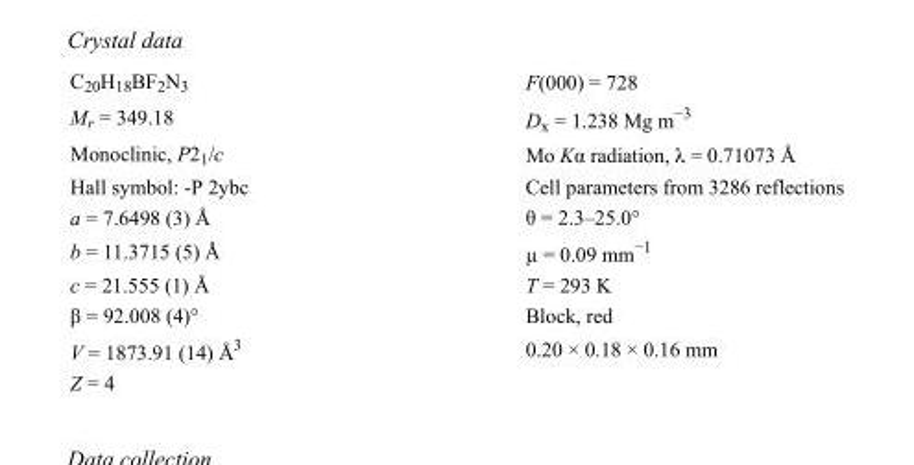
<table><tbody><tr><td>C<sub>20</sub>H<sub>18</sub>BF<sub>2</sub>N<sub>3</sub></td><td>F(000) = 728</td></tr><tr><td>M<sub>r</sub> = 349.18</td><td>D<sub>x</sub> = 1.238 Mg m<sup>−3</sup></td></tr><tr><td>Monoclinic, P2<sub>1</sub>/c</td><td>Mo Kα radiation, λ = 0.71073 Å</td></tr><tr><td>Hall symbol: -P 2ybc</td><td>Cell parameters from 3286 reflections</td></tr><tr><td>a = 7.6498 (3) Å</td><td>θ = 2.3–25.0°</td></tr><tr><td>b = 11.3715 (5) Å</td><td>µ = 0.09 mm<sup>−1</sup></td></tr><tr><td>c = 21.555 (1) Å</td><td>T = 293 K</td></tr><tr><td>β = 92.008 (4)°</td><td>Block, red</td></tr><tr><td>V = 1873.91 (14) Å<sup>3</sup></td><td>0.20 × 0.18 × 0.16 mm</td></tr><tr><td>Z = 4</td><td></td></tr></tbody></table>